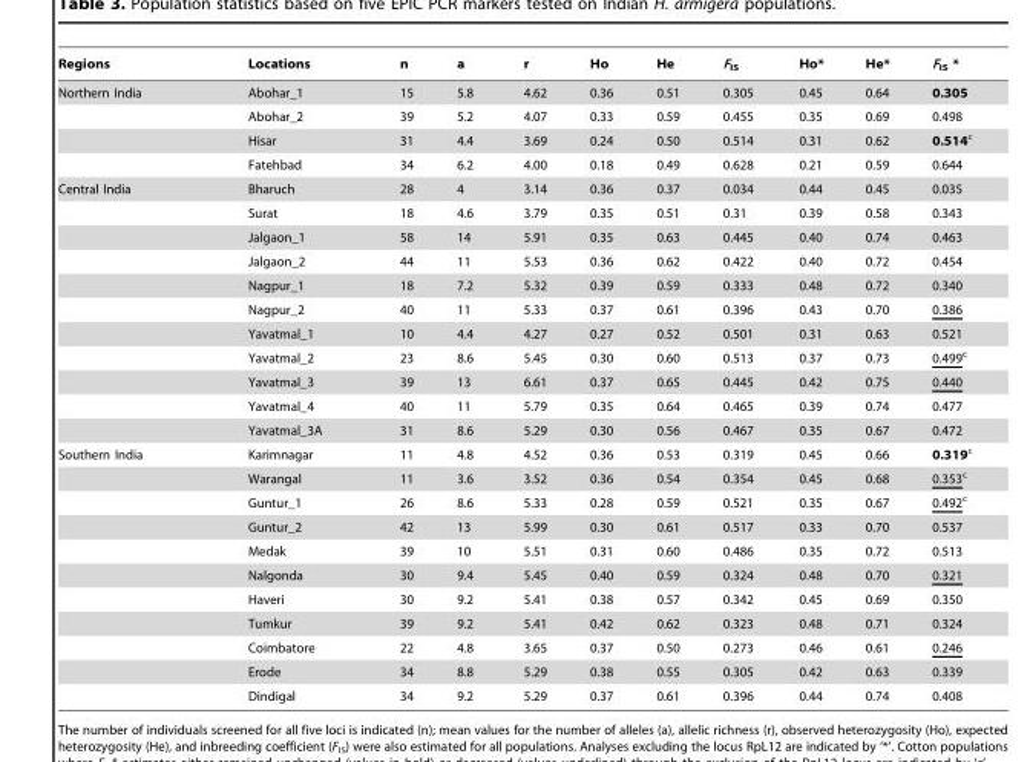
<table><thead><tr><td>Regions</td><td>Locations</td><td>n</td><td>a</td><td>r</td><td>Ho</td><td>He</td><td>F<sub>IS</sub></td><td>Ho*</td><td>He*</td><td>F<sub>IS</sub> *</td></tr></thead><tbody><tr><td rowspan="4">Northern India</td><td>Abohar_1</td><td>15</td><td>5.8</td><td>4.62</td><td>0.36</td><td>0.51</td><td>0.305</td><td>0.45</td><td>0.64</td><td>0.305</td></tr><tr><td>Abohar_2</td><td>39</td><td>5.2</td><td>4.07</td><td>0.33</td><td>0.59</td><td>0.455</td><td>0.35</td><td>0.69</td><td>0.498</td></tr><tr><td>Hisar</td><td>31</td><td>4.4</td><td>3.69</td><td>0.24</td><td>0.50</td><td>0.514</td><td>0.31</td><td>0.62</td><td>0.514<sup>c</sup></td></tr><tr><td>Fatehbad</td><td>34</td><td>6.2</td><td>4.00</td><td>0.18</td><td>0.49</td><td>0.628</td><td>0.21</td><td>0.59</td><td>0.644</td></tr><tr><td rowspan="11">Central India</td><td>Bharuch</td><td>28</td><td>4</td><td>3.14</td><td>0.36</td><td>0.37</td><td>0.034</td><td>0.44</td><td>0.45</td><td>0.035</td></tr><tr><td>Surat</td><td>18</td><td>4.6</td><td>3.79</td><td>0.35</td><td>0.51</td><td>0.31</td><td>0.39</td><td>0.58</td><td>0.343</td></tr><tr><td>Jalgaon_1</td><td>58</td><td>14</td><td>5.91</td><td>0.35</td><td>0.63</td><td>0.445</td><td>0.40</td><td>0.74</td><td>0.463</td></tr><tr><td>Jalgaon_2</td><td>44</td><td>11</td><td>5.53</td><td>0.36</td><td>0.62</td><td>0.422</td><td>0.40</td><td>0.72</td><td>0.454</td></tr><tr><td>Nagpur_1</td><td>18</td><td>7.2</td><td>5.32</td><td>0.39</td><td>0.59</td><td>0.333</td><td>0.48</td><td>0.72</td><td>0.340</td></tr><tr><td>Nagpur_2</td><td>40</td><td>11</td><td>5.33</td><td>0.37</td><td>0.61</td><td>0.396</td><td>0.43</td><td>0.70</td><td>0.386</td></tr><tr><td>Yavatmal_1</td><td>10</td><td>4.4</td><td>4.27</td><td>0.27</td><td>0.52</td><td>0.501</td><td>0.31</td><td>0.63</td><td>0.521</td></tr><tr><td>Yavatmal_2</td><td>23</td><td>8.6</td><td>5.45</td><td>0.30</td><td>0.60</td><td>0.513</td><td>0.37</td><td>0.73</td><td>0.499<sup>c</sup></td></tr><tr><td>Yavatmal_3</td><td>39</td><td>13</td><td>6.61</td><td>0.37</td><td>0.65</td><td>0.445</td><td>0.42</td><td>0.75</td><td>0.440</td></tr><tr><td>Yavatmal_4</td><td>40</td><td>11</td><td>5.79</td><td>0.35</td><td>0.64</td><td>0.465</td><td>0.39</td><td>0.74</td><td>0.477</td></tr><tr><td>Yavatmal_3A</td><td>31</td><td>8.6</td><td>5.29</td><td>0.30</td><td>0.56</td><td>0.467</td><td>0.35</td><td>0.67</td><td>0.472</td></tr><tr><td rowspan="11">Southern India</td><td>Karimnagar</td><td>11</td><td>4.8</td><td>4.52</td><td>0.36</td><td>0.53</td><td>0.319</td><td>0.45</td><td>0.66</td><td>0.319<sup>c</sup></td></tr><tr><td>Warangal</td><td>11</td><td>3.6</td><td>3.52</td><td>0.36</td><td>0.54</td><td>0.354</td><td>0.45</td><td>0.68</td><td>0.353<sup>c</sup></td></tr><tr><td>Guntur_1</td><td>26</td><td>8.6</td><td>5.33</td><td>0.28</td><td>0.59</td><td>0.521</td><td>0.35</td><td>0.67</td><td>0.492<sup>c</sup></td></tr><tr><td>Guntur_2</td><td>42</td><td>13</td><td>5.99</td><td>0.30</td><td>0.61</td><td>0.517</td><td>0.33</td><td>0.70</td><td>0.537</td></tr><tr><td>Medak</td><td>39</td><td>10</td><td>5.51</td><td>0.31</td><td>0.60</td><td>0.486</td><td>0.35</td><td>0.72</td><td>0.513</td></tr><tr><td>Nalgonda</td><td>30</td><td>9.4</td><td>5.45</td><td>0.40</td><td>0.59</td><td>0.324</td><td>0.48</td><td>0.70</td><td>0.321</td></tr><tr><td>Haveri</td><td>30</td><td>9.2</td><td>5.41</td><td>0.38</td><td>0.57</td><td>0.342</td><td>0.45</td><td>0.69</td><td>0.350</td></tr><tr><td>Tumkur</td><td>39</td><td>9.2</td><td>5.41</td><td>0.42</td><td>0.62</td><td>0.323</td><td>0.48</td><td>0.71</td><td>0.324</td></tr><tr><td>Coimbatore</td><td>22</td><td>4.8</td><td>3.65</td><td>0.37</td><td>0.50</td><td>0.273</td><td>0.46</td><td>0.61</td><td>0.246</td></tr><tr><td>Erode</td><td>34</td><td>8.8</td><td>5.29</td><td>0.38</td><td>0.55</td><td>0.305</td><td>0.42</td><td>0.63</td><td>0.339</td></tr><tr><td>Dindigal</td><td>34</td><td>9.2</td><td>5.29</td><td>0.37</td><td>0.61</td><td>0.396</td><td>0.44</td><td>0.74</td><td>0.408</td></tr></tbody></table>